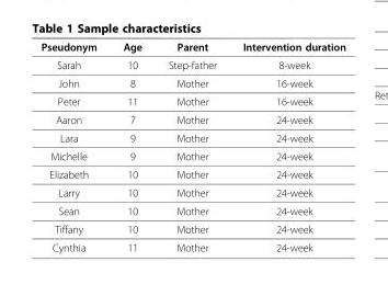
<table><thead><tr><td>Pseudonym</td><td>Age</td><td>Parent</td><td>Intervention duration</td></tr></thead><tbody><tr><td>Sarah</td><td>10</td><td>Step-father</td><td>8-week</td></tr><tr><td>John</td><td>8</td><td>Mother</td><td>16-week</td></tr><tr><td>Peter</td><td>11</td><td>Mother</td><td>16-week</td></tr><tr><td>Aaron</td><td>7</td><td>Mother</td><td>24-week</td></tr><tr><td>Lara</td><td>9</td><td>Mother</td><td>24-week</td></tr><tr><td>Michelle</td><td>9</td><td>Mother</td><td>24-week</td></tr><tr><td>Elizabeth</td><td>10</td><td>Mother</td><td>24-week</td></tr><tr><td>Larry</td><td>10</td><td>Mother</td><td>24-week</td></tr><tr><td>Sean</td><td>10</td><td>Mother</td><td>24-week</td></tr><tr><td>Tiffany</td><td>10</td><td>Mother</td><td>24-week</td></tr><tr><td>Cynthia</td><td>11</td><td>Mother</td><td>24-week</td></tr></tbody></table>